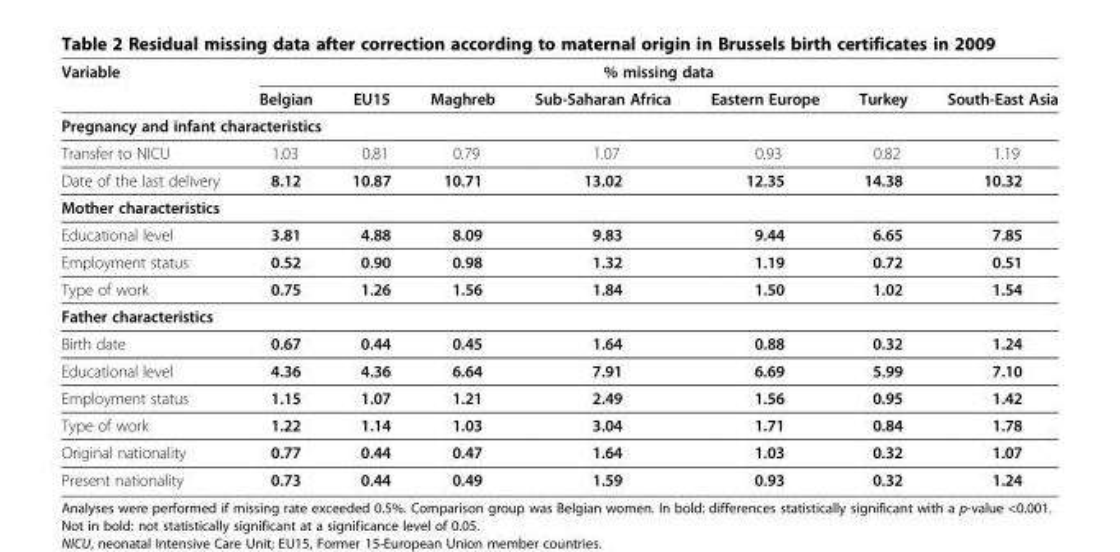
<table><thead><tr><td rowspan="2">Variable</td><td colspan="7">% missing data</td></tr><tr><td>Belgian</td><td>EU15</td><td>Maghreb</td><td>Sub-Saharan Africa</td><td>Eastern Europe</td><td>Turkey</td><td>South-East Asia</td></tr></thead><tbody><tr><td colspan="8">Pregnancy and infant characteristics</td></tr><tr><td>Transfer to NICU</td><td>1.03</td><td>0.81</td><td>0.79</td><td>1.07</td><td>0.93</td><td>0.82</td><td>1.19</td></tr><tr><td>Date of the last delivery</td><td>8.12</td><td>10.87</td><td>10.71</td><td>13.02</td><td>12.35</td><td>14.38</td><td>10.32</td></tr><tr><td colspan="8">Mother characteristics</td></tr><tr><td>Educational level</td><td>3.81</td><td>4.88</td><td>8.09</td><td>9.83</td><td>9.44</td><td>6.65</td><td>7.85</td></tr><tr><td>Employment status</td><td>0.52</td><td>0.90</td><td>0.98</td><td>1.32</td><td>1.19</td><td>0.72</td><td>0.51</td></tr><tr><td>Type of work</td><td>0.75</td><td>1.26</td><td>1.56</td><td>1.84</td><td>1.50</td><td>1.02</td><td>1.54</td></tr><tr><td colspan="8">Father characteristics</td></tr><tr><td>Birth date</td><td>0.67</td><td>0.44</td><td>0.45</td><td>1.64</td><td>0.88</td><td>0.32</td><td>1.24</td></tr><tr><td>Educational level</td><td>4.36</td><td>4.36</td><td>6.64</td><td>7.91</td><td>6.69</td><td>5.99</td><td>7.10</td></tr><tr><td>Employment status</td><td>1.15</td><td>1.07</td><td>1.21</td><td>2.49</td><td>1.56</td><td>0.95</td><td>1.42</td></tr><tr><td>Type of work</td><td>1.22</td><td>1.14</td><td>1.03</td><td>3.04</td><td>1.71</td><td>0.84</td><td>1.78</td></tr><tr><td>Original nationality</td><td>0.77</td><td>0.44</td><td>0.47</td><td>1.64</td><td>1.03</td><td>0.32</td><td>1.07</td></tr><tr><td>Present nationality</td><td>0.73</td><td>0.44</td><td>0.49</td><td>1.59</td><td>0.93</td><td>0.32</td><td>1.24</td></tr></tbody></table>